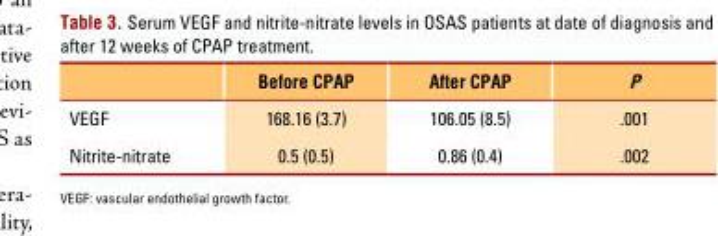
<table><thead><tr><td></td><td>Before CPAP</td><td>After CPAP</td><td>P</td></tr></thead><tbody><tr><td>VEGF</td><td>168.16 (3.7)</td><td>106.05 (8.5)</td><td>.001</td></tr><tr><td>Nitrite-nitrate</td><td>0.5 (0.5)</td><td>0.86 (0.4)</td><td>.002</td></tr></tbody></table>